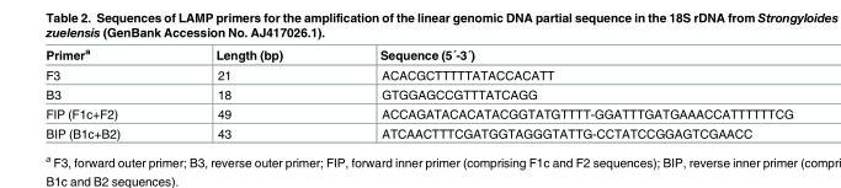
<table><thead><tr><td>Primer<sup>a</sup></td><td>Length (bp)</td><td>Sequence (5´-3´)</td></tr></thead><tbody><tr><td>F3</td><td>21</td><td>ACACGCTTTTTATACCACATT</td></tr><tr><td>B3</td><td>18</td><td>GTGGAGCCGTTTATCAGG</td></tr><tr><td>FIP (F1c+F2)</td><td>49</td><td>ACCAGATACACATACGGTATGTTTT-GGATTTGATGAAACCATTTTTTCG</td></tr><tr><td>BIP (B1c+B2)</td><td>43</td><td>ATCAACTTTCGATGGTAGGGTATTG-CCTATCCGGAGTCGAACC</td></tr></tbody></table>